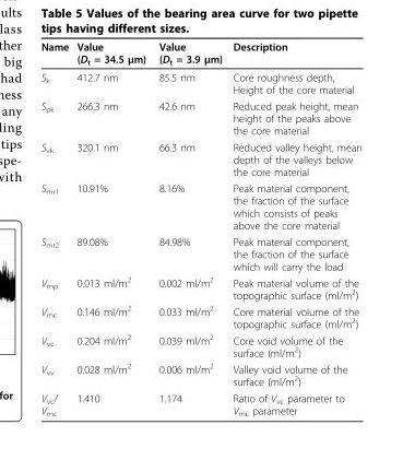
<table><thead><tr><td>Name</td><td>Value (D<sub>t</sub> = 34.5 μm)</td><td>Value (D<sub>t</sub> = 3.9 μm)</td><td>Description</td></tr></thead><tbody><tr><td>S<sub>k</sub></td><td>412.7 nm</td><td>85.5 nm</td><td>Core roughness depth, Height of the core material</td></tr><tr><td>S<sub>pk</sub></td><td>266.3 nm</td><td>42.6 nm</td><td>Reduced peak height, mean height of the peaks above the core material</td></tr><tr><td>S<sub>vk</sub></td><td>320.1 nm</td><td>66.3 nm</td><td>Reduced valley height, mean depth of the valleys below the core material</td></tr><tr><td>S<sub>mr1</sub></td><td>10.91%</td><td>8.16%</td><td>Peak material component, the fraction of the surface which consists of peaks above the core material</td></tr><tr><td>S<sub>mr2</sub></td><td>89.08%</td><td>84.98%</td><td>Peak material component, the fraction of the surface which will carry the load</td></tr><tr><td>V<sub>mp</sub></td><td>0.013 ml/m<sup>2</sup></td><td>0.002 ml/m<sup>2</sup></td><td>Peak material volume of the topographic surface (ml/m<sup>2</sup>)</td></tr><tr><td>V<sub>mc</sub></td><td>0.146 ml/m<sup>2</sup></td><td>0.033 ml/m<sup>2</sup></td><td>Core material volume of the topographic surface (ml/m<sup>2</sup>)</td></tr><tr><td>V<sub>vc</sub></td><td>0.204 ml/m<sup>2</sup></td><td>0.039 ml/m<sup>2</sup></td><td>Core void volume of the surface (ml/m<sup>2</sup>)</td></tr><tr><td>V<sub>vv</sub></td><td>0.028 ml/m<sup>2</sup></td><td>0.006 ml/m<sup>2</sup></td><td>Valley void volume of the surface (ml/m<sup>2</sup>)</td></tr><tr><td>V<sub>vc</sub>/ V<sub>mc</sub></td><td>1.410</td><td>1.174</td><td>Ratio of V<sub>vc</sub> parameter to V<sub>mc</sub> parameter</td></tr></tbody></table>